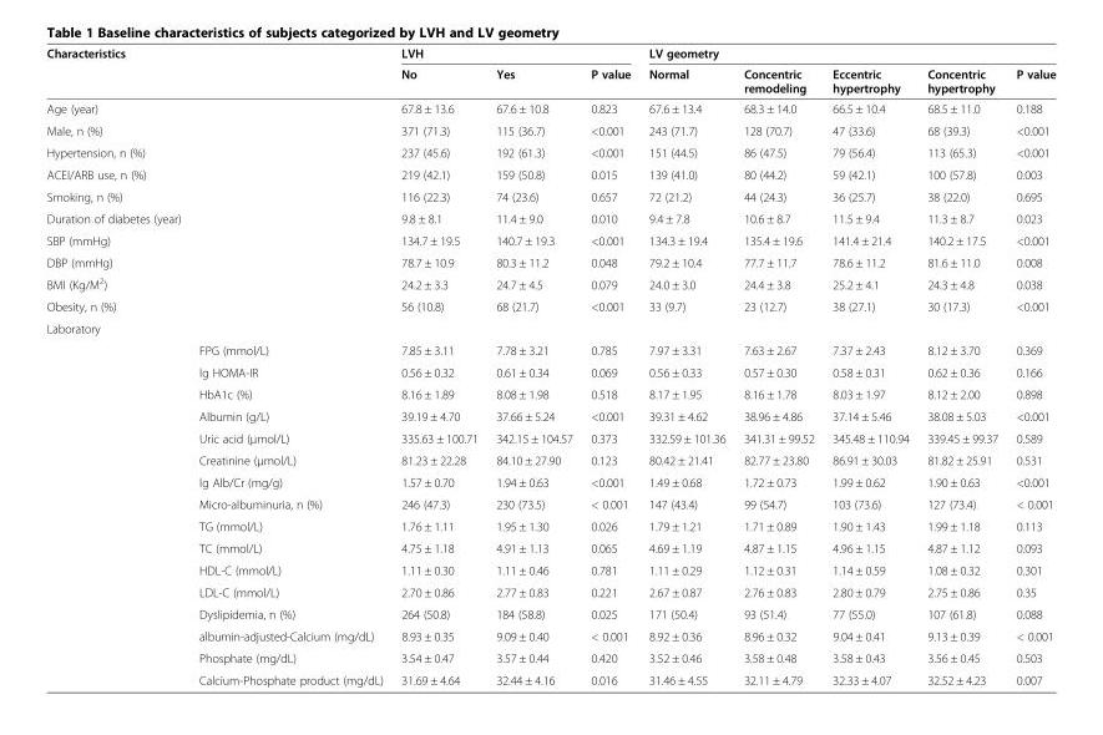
<table><thead><tr><td rowspan="2" colspan="2">Characteristics</td><td colspan="3">LVH</td><td colspan="5">LV geometry</td></tr><tr><td rowspan="2">No 67.8 ± 13.6</td><td rowspan="2">Yes 67.6 ± 10.8</td><td rowspan="2">P value 0.823</td><td rowspan="2">Normal 67.6 ± 13.4</td><td rowspan="2">Concentric remodeling 68.3 ± 14.0</td><td rowspan="2">Eccentric hypertrophy 66.5 ± 10.4</td><td rowspan="2">Concentric hypertrophy 68.5 ± 11.0</td><td rowspan="2">P value 0.188</td></tr><tr><td>Age (year)</td><td></td></tr></thead><tbody><tr><td>Male, n (%)</td><td></td><td>371 (71.3)</td><td>115 (36.7)</td><td>&lt;0.001</td><td>243 (71.7)</td><td>128 (70.7)</td><td>47 (33.6)</td><td>68 (39.3)</td><td>&lt;0.001</td></tr><tr><td>Hypertension, n (%)</td><td></td><td>237 (45.6)</td><td>192 (61.3)</td><td>&lt;0.001</td><td>151 (44.5)</td><td>86 (47.5)</td><td>79 (56.4)</td><td>113 (65.3)</td><td>&lt;0.001</td></tr><tr><td>ACEI/ARB use, n (%)</td><td></td><td>219 (42.1)</td><td>159 (50.8)</td><td>0.015</td><td>139 (41.0)</td><td>80 (44.2)</td><td>59 (42.1)</td><td>100 (57.8)</td><td>0.003</td></tr><tr><td>Smoking, n (%)</td><td></td><td>116 (22.3)</td><td>74 (23.6)</td><td>0.657</td><td>72 (21.2)</td><td>44 (24.3)</td><td>36 (25.7)</td><td>38 (22.0)</td><td>0.695</td></tr><tr><td>Duration of diabetes (year)</td><td></td><td>9.8 ± 8.1</td><td>11.4 ± 9.0</td><td>0.010</td><td>9.4 ± 7.8</td><td>10.6 ± 8.7</td><td>11.5 ± 9.4</td><td>11.3 ± 8.7</td><td>0.023</td></tr><tr><td>SBP (mmHg)</td><td></td><td>134.7 ± 19.5</td><td>140.7 ± 19.3</td><td>&lt;0.001</td><td>134.3 ± 19.4</td><td>135.4 ± 19.6</td><td>141.4 ± 21.4</td><td>140.2 ± 17.5</td><td>&lt;0.001</td></tr><tr><td>DBP (mmHg)</td><td></td><td>78.7 ± 10.9</td><td>80.3 ± 11.2</td><td>0.048</td><td>79.2 ± 10.4</td><td>77.7 ± 11.7</td><td>78.6 ± 11.2</td><td>81.6 ± 11.0</td><td>0.008</td></tr><tr><td>BMI (Kg/M<sup>2</sup>)</td><td></td><td>24.2 ± 3.3</td><td>24.7 ± 4.5</td><td>0.079</td><td>24.0 ± 3.0</td><td>24.4 ± 3.8</td><td>25.2 ± 4.1</td><td>24.3 ± 4.8</td><td>0.038</td></tr><tr><td>Obesity, n (%)</td><td></td><td>56 (10.8)</td><td>68 (21.7)</td><td>&lt;0.001</td><td>33 (9.7)</td><td>23 (12.7)</td><td>38 (27.1)</td><td>30 (17.3)</td><td>&lt;0.001</td></tr><tr><td colspan="10">Laboratory</td></tr><tr><td></td><td>FPG (mmol/L)</td><td>7.85 ± 3.11</td><td>7.78 ± 3.21</td><td>0.785</td><td>7.97 ± 3.31</td><td>7.63 ± 2.67</td><td>7.37 ± 2.43</td><td>8.12 ± 3.70</td><td>0.369</td></tr><tr><td></td><td>lg HOMA-IR</td><td>0.56 ± 0.32</td><td>0.61 ± 0.34</td><td>0.069</td><td>0.56 ± 0.33</td><td>0.57 ± 0.30</td><td>0.58 ± 0.31</td><td>0.62 ± 0.36</td><td>0.166</td></tr><tr><td></td><td>HbA1c (%)</td><td>8.16 ± 1.89</td><td>8.08 ± 1.98</td><td>0.518</td><td>8.17 ± 1.95</td><td>8.16 ± 1.78</td><td>8.03 ± 1.97</td><td>8.12 ± 2.00</td><td>0.898</td></tr><tr><td></td><td>Albumin (g/L)</td><td>39.19 ± 4.70</td><td>37.66 ± 5.24</td><td>&lt;0.001</td><td>39.31 ± 4.62</td><td>38.96 ± 4.86</td><td>37.14 ± 5.46</td><td>38.08 ± 5.03</td><td>&lt;0.001</td></tr><tr><td></td><td>Uric acid (μmol/L)</td><td>335.63 ± 100.71</td><td>342.15 ± 104.57</td><td>0.373</td><td>332.59 ± 101.36</td><td>341.31 ± 99.52</td><td>345.48 ± 110.94</td><td>339.45 ± 99.37</td><td>0.589</td></tr><tr><td></td><td>Creatinine (μmol/L)</td><td>81.23 ± 22.28</td><td>84.10 ± 27.90</td><td>0.123</td><td>80.42 ± 21.41</td><td>82.77 ± 23.80</td><td>86.91 ± 30.03</td><td>81.82 ± 25.91</td><td>0.531</td></tr><tr><td></td><td>lg Alb/Cr (mg/g)</td><td>1.57 ± 0.70</td><td>1.94 ± 0.63</td><td>&lt;0.001</td><td>1.49 ± 0.68</td><td>1.72 ± 0.73</td><td>1.99 ± 0.62</td><td>1.90 ± 0.63</td><td>&lt;0.001</td></tr><tr><td></td><td>Micro-albuminuria, n (%)</td><td>246 (47.3)</td><td>230 (73.5)</td><td>&lt; 0.001</td><td>147 (43.4)</td><td>99 (54.7)</td><td>103 (73.6)</td><td>127 (73.4)</td><td>&lt; 0.001</td></tr><tr><td></td><td>TG (mmol/L)</td><td>1.76 ± 1.11</td><td>1.95 ± 1.30</td><td>0.026</td><td>1.79 ± 1.21</td><td>1.71 ± 0.89</td><td>1.90 ± 1.43</td><td>1.99 ± 1.18</td><td>0.113</td></tr><tr><td></td><td>TC (mmol/L)</td><td>4.75 ± 1.18</td><td>4.91 ± 1.13</td><td>0.065</td><td>4.69 ± 1.19</td><td>4.87 ± 1.15</td><td>4.96 ± 1.15</td><td>4.87 ± 1.12</td><td>0.093</td></tr><tr><td></td><td>HDL-C (mmol/L)</td><td>1.11 ± 0.30</td><td>1.11 ± 0.46</td><td>0.781</td><td>1.11 ± 0.29</td><td>1.12 ± 0.31</td><td>1.14 ± 0.59</td><td>1.08 ± 0.32</td><td>0.301</td></tr><tr><td></td><td>LDL-C (mmol/L)</td><td>2.70 ± 0.86</td><td>2.77 ± 0.83</td><td>0.221</td><td>2.67 ± 0.87</td><td>2.76 ± 0.83</td><td>2.80 ± 0.79</td><td>2.75 ± 0.86</td><td>0.35</td></tr><tr><td></td><td>Dyslipidemia, n (%)</td><td>264 (50.8)</td><td>184 (58.8)</td><td>0.025</td><td>171 (50.4)</td><td>93 (51.4)</td><td>77 (55.0)</td><td>107 (61.8)</td><td>0.088</td></tr><tr><td></td><td>albumin-adjusted-Calcium (mg/dL)</td><td>8.93 ± 0.35</td><td>9.09 ± 0.40</td><td>&lt; 0.001</td><td>8.92 ± 0.36</td><td>8.96 ± 0.32</td><td>9.04 ± 0.41</td><td>9.13 ± 0.39</td><td>&lt; 0.001</td></tr><tr><td></td><td>Phosphate (mg/dL)</td><td>3.54 ± 0.47</td><td>3.57 ± 0.44</td><td>0.420</td><td>3.52 ± 0.46</td><td>3.58 ± 0.48</td><td>3.58 ± 0.43</td><td>3.56 ± 0.45</td><td>0.503</td></tr><tr><td></td><td>Calcium-Phosphate product (mg/dL)</td><td>31.69 ± 4.64</td><td>32.44 ± 4.16</td><td>0.016</td><td>31.46 ± 4.55</td><td>32.11 ± 4.79</td><td>32.33 ± 4.07</td><td>32.52 ± 4.23</td><td>0.007</td></tr></tbody></table>